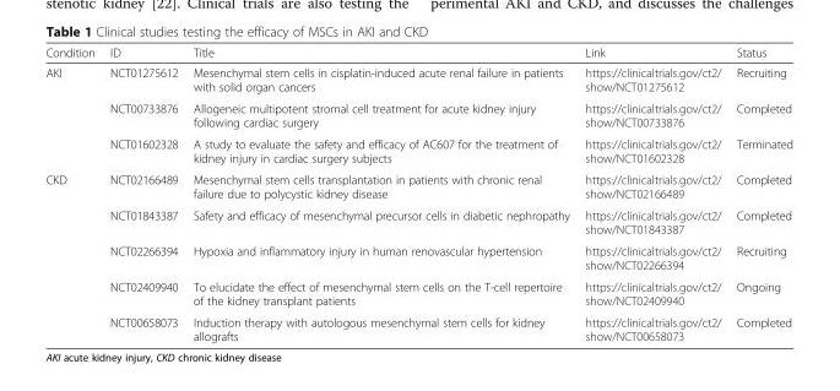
<table><thead><tr><td>Condition</td><td>ID</td><td>Title</td><td>Link</td><td>Status</td></tr></thead><tbody><tr><td rowspan="3">AKI</td><td>NCT01275612</td><td>Mesenchymal stem cells in cisplatin-induced acute renal failure in patients with solid organ cancers</td><td>https://clinicaltrials.gov/ct2/ show/NCT01275612</td><td>Recruiting</td></tr><tr><td>NCT00733876</td><td>Allogeneic multipotent stromal cell treatment for acute kidney injury following cardiac surgery</td><td>https://clinicaltrials.gov/ct2/ show/NCT00733876</td><td>Completed</td></tr><tr><td>NCT01602328</td><td>A study to evaluate the safety and efficacy of AC607 for the treatment of kidney injury in cardiac surgery subjects</td><td>https://clinicaltrials.gov/ct2/ show/NCT01602328</td><td>Terminated</td></tr><tr><td rowspan="5">CKD</td><td>NCT02166489</td><td>Mesenchymal stem cells transplantation in patients with chronic renal failure due to polycystic kidney disease</td><td>https://clinicaltrials.gov/ct2/ show/NCT02166489</td><td>Completed</td></tr><tr><td>NCT01843387</td><td>Safety and efficacy of mesenchymal precursor cells in diabetic nephropathy</td><td>https://clinicaltrials.gov/ct2/ show/NCT01843387</td><td>Completed</td></tr><tr><td>NCT02266394</td><td>Hypoxia and inflammatory injury in human renovascular hypertension</td><td>https://clinicaltrials.gov/ct2/ show/NCT02266394</td><td>Recruiting</td></tr><tr><td>NCT02409940</td><td>To elucidate the effect of mesenchymal stem cells on the T-cell repertoire of the kidney transplant patients</td><td>https://clinicaltrials.gov/ct2/ show/NCT02409940</td><td>Ongoing</td></tr><tr><td>NCT00658073</td><td>Induction therapy with autologous mesenchymal stem cells for kidney allografts</td><td>https://clinicaltrials.gov/ct2/ show/NCT00658073</td><td>Completed</td></tr></tbody></table>